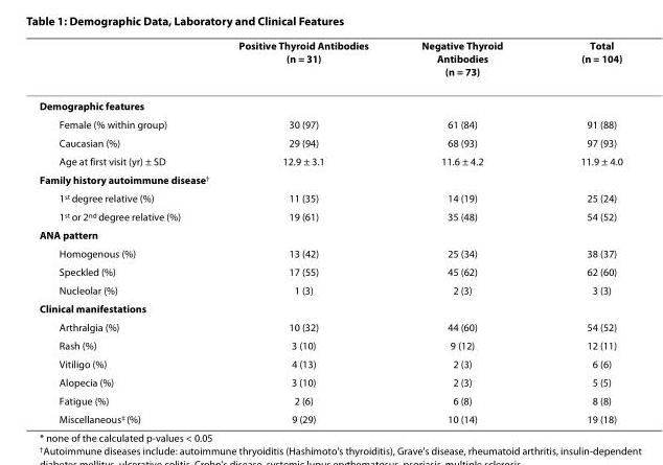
<table><thead><tr><td></td><td>Positive Thyroid Antibodies (n = 31)</td><td>Negative Thyroid Antibodies (n = 73)</td><td>Total (n = 104)</td></tr></thead><tbody><tr><td colspan="4">Demographic features</td></tr><tr><td>Female (% within group)</td><td>30 (97)</td><td>61 (84)</td><td>91 (88)</td></tr><tr><td>Caucasian (%)</td><td>29 (94)</td><td>68 (93)</td><td>97 (93)</td></tr><tr><td>Age at first visit (yr) ± SD</td><td>12.9 ± 3.1</td><td>11.6 ± 4.2</td><td>11.9 ± 4.0</td></tr><tr><td colspan="4">Family history autoimmune disease<sup>†</sup></td></tr><tr><td>1<sup>st</sup> degree relative (%)</td><td>11 (35)</td><td>14 (19)</td><td>25 (24)</td></tr><tr><td>1<sup>st</sup> or 2<sup>nd</sup> degree relative (%)</td><td>19 (61)</td><td>35 (48)</td><td>54 (52)</td></tr><tr><td colspan="4">ANA pattern</td></tr><tr><td>Homogenous (%)</td><td>13 (42)</td><td>25 (34)</td><td>38 (37)</td></tr><tr><td>Speckled (%)</td><td>17 (55)</td><td>45 (62)</td><td>62 (60)</td></tr><tr><td>Nucleolar (%)</td><td>1 (3)</td><td>2 (3)</td><td>3 (3)</td></tr><tr><td colspan="4">Clinical manifestations</td></tr><tr><td>Arthralgia (%)</td><td>10 (32)</td><td>44 (60)</td><td>54 (52)</td></tr><tr><td>Rash (%)</td><td>3 (10)</td><td>9 (12)</td><td>12 (11)</td></tr><tr><td>Vitiligo (%)</td><td>4 (13)</td><td>2 (3)</td><td>6 (6)</td></tr><tr><td>Alopecia (%)</td><td>3 (10)</td><td>2 (3)</td><td>5 (5)</td></tr><tr><td>Fatigue (%)</td><td>2 (6)</td><td>6 (8)</td><td>8 (8)</td></tr><tr><td>Miscellaneous<sup>‡</sup> (%)</td><td>9 (29)</td><td>10 (14)</td><td>19 (18)</td></tr></tbody></table>